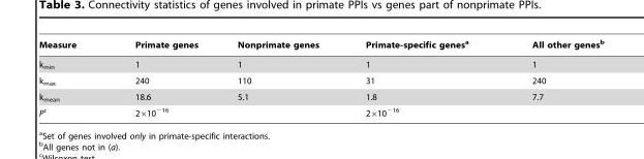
<table><thead><tr><td>Measure</td><td>Primate genes</td><td>Nonprimate genes</td><td>Primate-specific genes<sup>a</sup></td><td>All other genes<sup>b</sup></td></tr></thead><tbody><tr><td>k<sub>min</sub></td><td>1</td><td>1</td><td>1</td><td>1</td></tr><tr><td>k<sub>max</sub></td><td>240</td><td>110</td><td>31</td><td>240</td></tr><tr><td>k<sub>mean</sub></td><td>18.6</td><td>5.1</td><td>1.8</td><td>7.7</td></tr><tr><td>Pc</td><td colspan="2">2×10<sup>−16</sup></td><td colspan="2">2×10<sup>−16</sup></td></tr></tbody></table>